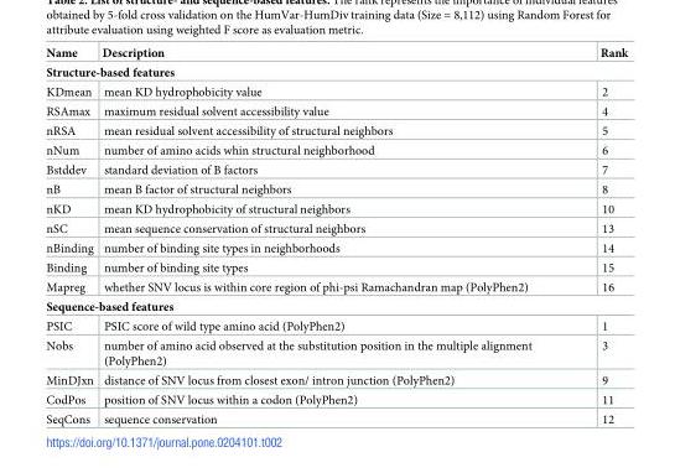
<table><thead><tr><td>Name</td><td>Description</td><td>Rank</td></tr></thead><tbody><tr><td colspan="3">Structure-based features</td></tr><tr><td>KDmean</td><td>mean KD hydrophobicity value</td><td>2</td></tr><tr><td>RSAmax</td><td>maximum residual solvent accessibility value</td><td>4</td></tr><tr><td>nRSA</td><td>mean residual solvent accessibility of structural neighbors</td><td>5</td></tr><tr><td>nNum</td><td>number of amino acids whin structural neighborhood</td><td>6</td></tr><tr><td>Bstddev</td><td>standard deviation of B factors</td><td>7</td></tr><tr><td>nB</td><td>mean B factor of structural neighbors</td><td>8</td></tr><tr><td>nKD</td><td>mean KD hydrophobicity of structural neighbors</td><td>10</td></tr><tr><td>nSC</td><td>mean sequence conservation of structural neighbors</td><td>13</td></tr><tr><td>nBinding</td><td>number of binding site types in neighborhoods</td><td>14</td></tr><tr><td>Binding</td><td>number of binding site types</td><td>15</td></tr><tr><td>Mapreg</td><td>whether SNV locus is within core region of phi-psi Ramachandran map (PolyPhen2)</td><td>16</td></tr><tr><td colspan="3">Sequence-based features</td></tr><tr><td>PSIC</td><td>PSIC score of wild type amino acid (PolyPhen2)</td><td>1</td></tr><tr><td>Nobs</td><td>number of amino acid observed at the substitution position in the multiple alignment (PolyPhen2)</td><td>3</td></tr><tr><td>MinDJxn</td><td>distance of SNV locus from closest exon/ intron junction (PolyPhen2)</td><td>9</td></tr><tr><td>CodPos</td><td>position of SNV locus within a codon (PolyPhen2)</td><td>11</td></tr><tr><td>SeqCons</td><td>sequence conservation</td><td>12</td></tr></tbody></table>